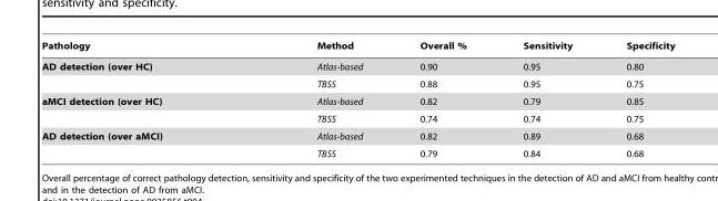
<table><thead><tr><td>Pathology</td><td>Method</td><td>Overall %</td><td>Sensitivity</td><td>Specificity</td></tr></thead><tbody><tr><td rowspan="2">AD detection (over HC)</td><td>Atlas-based</td><td>0.90</td><td>0.95</td><td>0.80</td></tr><tr><td>TBSS</td><td>0.88</td><td>0.95</td><td>0.75</td></tr><tr><td rowspan="2">aMCI detection (over HC)</td><td>Atlas-based</td><td>0.82</td><td>0.79</td><td>0.85</td></tr><tr><td>TBSS</td><td>0.74</td><td>0.74</td><td>0.75</td></tr><tr><td rowspan="2">AD detection (over aMCI)</td><td>Atlas-based</td><td>0.82</td><td>0.89</td><td>0.68</td></tr><tr><td>TBSS</td><td>0.79</td><td>0.84</td><td>0.68</td></tr></tbody></table>